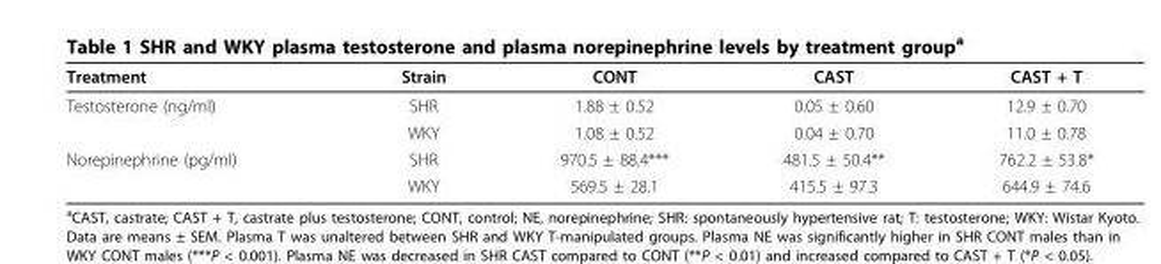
<table><thead><tr><td>Treatment</td><td>Strain</td><td>CONT</td><td>CAST</td><td>CAST + T</td></tr></thead><tbody><tr><td rowspan="2">Testosterone (ng/ml)</td><td>SHR</td><td>1.88 ± 0.52</td><td>0.05 ± 0.60</td><td>12.9 ± 0.70</td></tr><tr><td>WKY</td><td>1.08 ± 0.52</td><td>0.04 ± 0.70</td><td>11.0 ± 0.78</td></tr><tr><td rowspan="2">Norepinephrine (pg/ml)</td><td>SHR</td><td>970.5 ± 88.4***</td><td>481.5 ± 50.4**</td><td>762.2 ± 53.8*</td></tr><tr><td>WKY</td><td>569.5 ± 28.1</td><td>415.5 ± 97.3</td><td>644.9 ± 74.6</td></tr></tbody></table>